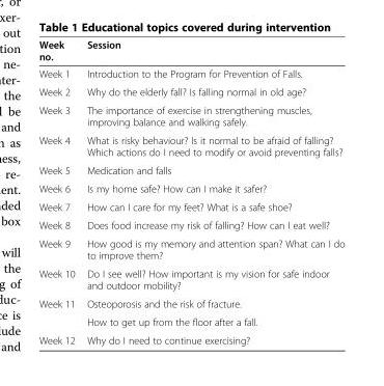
<table><thead><tr><td>Week no.</td><td>Session</td></tr></thead><tbody><tr><td>Week 1</td><td>Introduction to the Program for Prevention of Falls.</td></tr><tr><td>Week 2</td><td>Why do the elderly fall? Is falling normal in old age?</td></tr><tr><td>Week 3</td><td>The importance of exercise in strengthening muscles, improving balance and walking safely.</td></tr><tr><td>Week 4</td><td>What is risky behaviour? Is it normal to be afraid of falling? Which actions do I need to modify or avoid preventing falls?</td></tr><tr><td>Week 5</td><td>Medication and falls</td></tr><tr><td>Week 6</td><td>Is my home safe? How can I make it safer?</td></tr><tr><td>Week 7</td><td>How can I care for my feet? What is a safe shoe?</td></tr><tr><td>Week 8</td><td>Does food increase my risk of falling? How can I eat well?</td></tr><tr><td>Week 9</td><td>How good is my memory and attention span? What can I do to improve them?</td></tr><tr><td>Week 10</td><td>Do I see well? How important is my vision for safe indoor and outdoor mobility?</td></tr><tr><td rowspan="2">Week 11</td><td>Osteoporosis and the risk of fracture.</td></tr><tr><td>How to get up from the floor after a fall.</td></tr><tr><td>Week 12</td><td>Why do I need to continue exercising?</td></tr></tbody></table>